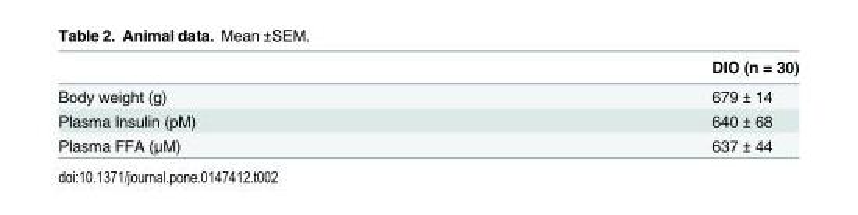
<table><thead><tr><td></td><td>DIO (n = 30)</td></tr></thead><tbody><tr><td>Body weight (g)</td><td>679 ± 14</td></tr><tr><td>Plasma Insulin (pM)</td><td>640 ± 68</td></tr><tr><td>Plasma FFA (μM)</td><td>637 ± 44</td></tr></tbody></table>